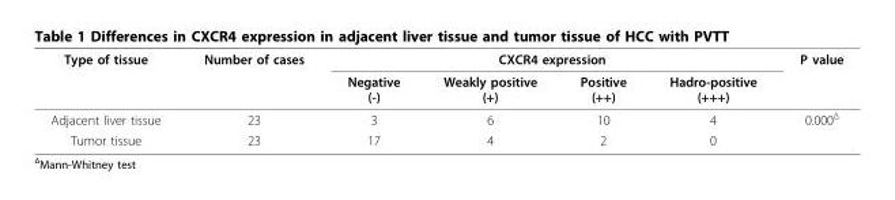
<table><thead><tr><td rowspan="2">Type of tissue</td><td rowspan="2">Number of cases</td><td colspan="4">CXCR4 expression</td><td rowspan="2">P value</td></tr><tr><td>Negative (-)</td><td>Weakly positive (+)</td><td>Positive (++)</td><td>Hadro-positive (+++)</td></tr></thead><tbody><tr><td>Adjacent liver tissue</td><td>23</td><td>3</td><td>6</td><td>10</td><td>4</td><td>0.000<sup>Δ</sup></td></tr><tr><td>Tumor tissue</td><td>23</td><td>17</td><td>4</td><td>2</td><td>0</td><td></td></tr></tbody></table>